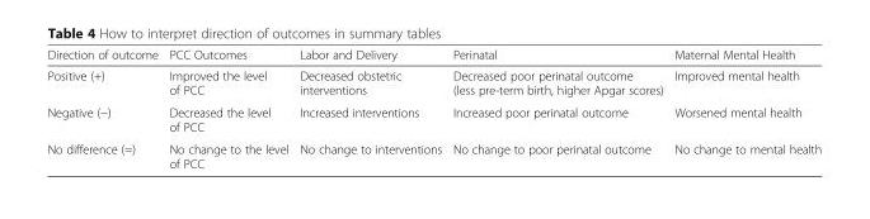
<table><thead><tr><td>Direction of outcome</td><td>PCC Outcomes</td><td>Labor and Delivery</td><td>Perinatal</td><td>Maternal Mental Health</td></tr></thead><tbody><tr><td>Positive (+)</td><td>Improved the level of PCC</td><td>Decreased obstetric interventions</td><td>Decreased poor perinatal outcome (less pre-term birth, higher Apgar scores)</td><td>Improved mental health</td></tr><tr><td>Negative (−)</td><td>Decreased the level of PCC</td><td>Increased interventions</td><td>Increased poor perinatal outcome</td><td>Worsened mental health</td></tr><tr><td>No difference (=)</td><td>No change to the level of PCC</td><td>No change to interventions</td><td>No change to poor perinatal outcome</td><td>No change to mental health</td></tr></tbody></table>